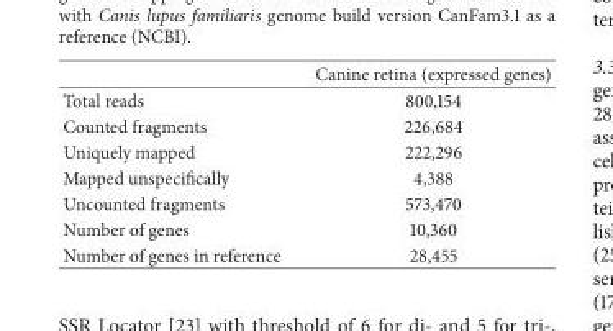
<table><thead><tr><td></td><td>Canine retina (expressed genes)</td></tr></thead><tbody><tr><td>Total reads</td><td>800,154</td></tr><tr><td>Counted fragments</td><td>226,684</td></tr><tr><td>Uniquely mapped</td><td>222,296</td></tr><tr><td>Mapped unspecifically</td><td>4,388</td></tr><tr><td>Uncounted fragments</td><td>573,470</td></tr><tr><td>Number of genes</td><td>10,360</td></tr><tr><td>Number of genes in reference</td><td>28,455</td></tr></tbody></table>